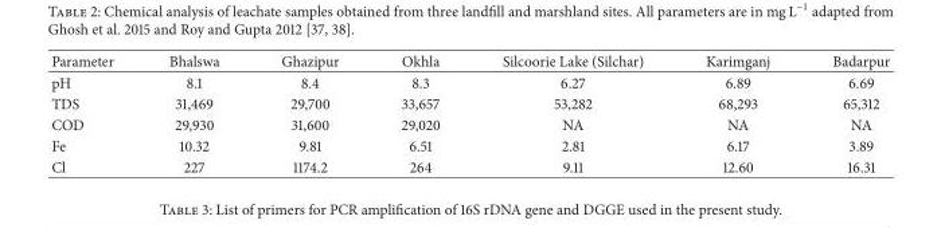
<table><thead><tr><td>Parameter</td><td>Bhalswa</td><td>Ghazipur</td><td>Okhla</td><td>Silcoorie Lake (Silchar)</td><td>Karimganj</td><td>Badarpur</td></tr></thead><tbody><tr><td>pH</td><td>8.1</td><td>8.4</td><td>8.3</td><td>6.27</td><td>6.89</td><td>6.69</td></tr><tr><td>TDS</td><td>31,469</td><td>29,700</td><td>33,657</td><td>53,282</td><td>68,293</td><td>65,312</td></tr><tr><td>COD</td><td>29,930</td><td>31,600</td><td>29,020</td><td>NA</td><td>NA</td><td>NA</td></tr><tr><td>Fe</td><td>10.32</td><td>9.81</td><td>6.51</td><td>2.81</td><td>6.17</td><td>3.89</td></tr><tr><td>Cl</td><td>227</td><td>1174.2</td><td>264</td><td>9.11</td><td>12.60</td><td>16.31</td></tr></tbody></table>